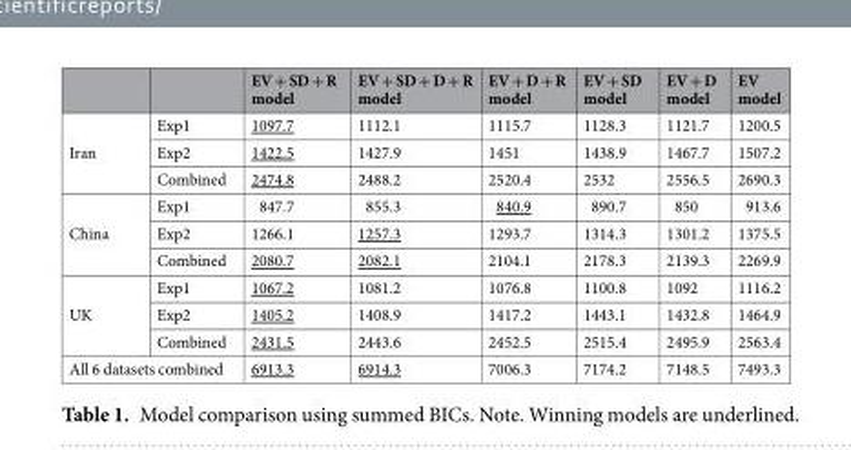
<table><thead><tr><td></td><td></td><td>EV + SD + R model</td><td>EV + SD + D + R model</td><td>EV + D + R model</td><td>EV + SD model</td><td>EV + D model</td><td>EV model</td></tr></thead><tbody><tr><td rowspan="3">Iran</td><td>Exp1</td><td>1097.7</td><td>1112.1</td><td>1115.7</td><td>1128.3</td><td>1121.7</td><td>1200.5</td></tr><tr><td>Exp2</td><td>1422.5</td><td>1427.9</td><td>1451</td><td>1438.9</td><td>1467.7</td><td>1507.2</td></tr><tr><td>Combined</td><td>2474.8</td><td>2488.2</td><td>2520.4</td><td>2532</td><td>2556.5</td><td>2690.3</td></tr><tr><td rowspan="3">China</td><td>Exp1</td><td>847.7</td><td>855.3</td><td>840.9</td><td>890.7</td><td>850</td><td>913.6</td></tr><tr><td>Exp2</td><td>1266.1</td><td>1257.3</td><td>1293.7</td><td>1314.3</td><td>1301.2</td><td>1375.5</td></tr><tr><td>Combined</td><td>2080.7</td><td>2082.1</td><td>2104.1</td><td>2178.3</td><td>2139.3</td><td>2269.9</td></tr><tr><td rowspan="3">UK</td><td>Exp1</td><td>1067.2</td><td>1081.2</td><td>1076.8</td><td>1100.8</td><td>1092</td><td>1116.2</td></tr><tr><td>Exp2</td><td>1405.2</td><td>1408.9</td><td>1417.2</td><td>1443.1</td><td>1432.8</td><td>1464.9</td></tr><tr><td>Combined</td><td>2431.5</td><td>2443.6</td><td>2452.5</td><td>2515.4</td><td>2495.9</td><td>2563.4</td></tr><tr><td colspan="2">All 6 datasets combined</td><td>6913.3</td><td>6914.3</td><td>7006.3</td><td>7174.2</td><td>7148.5</td><td>7493.3</td></tr></tbody></table>